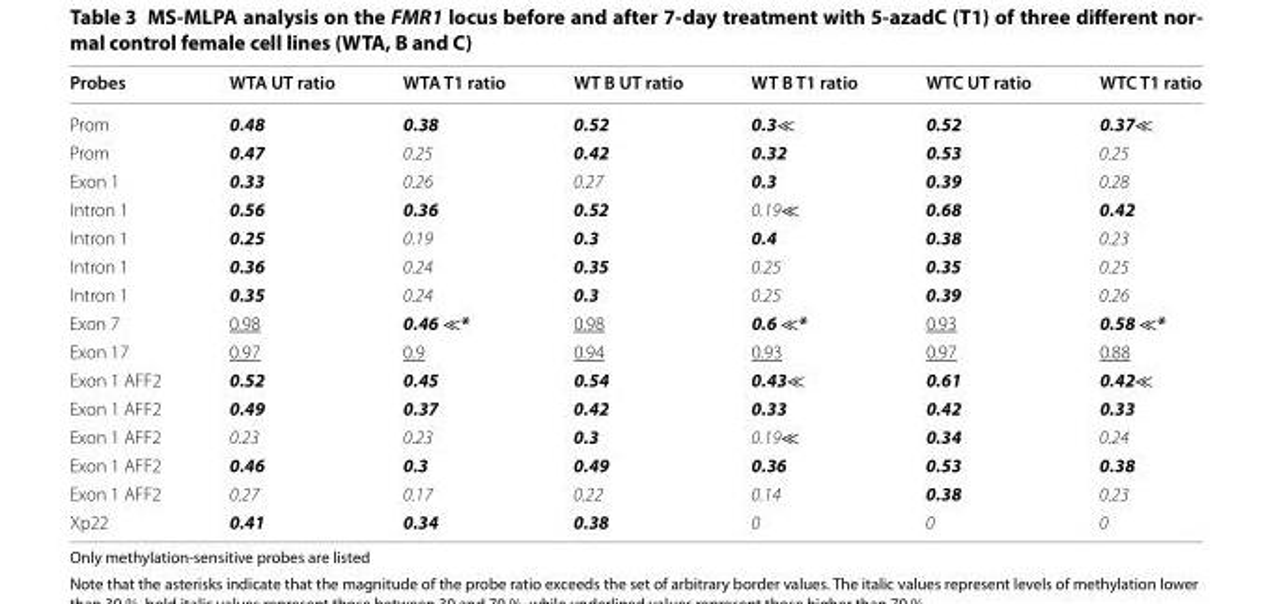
<table><thead><tr><td>Probes</td><td>WTA UT ratio</td><td>WTA T1 ratio</td><td>WT B UT ratio</td><td>WT B T1 ratio</td><td>WTC UT ratio</td><td>WTC T1 ratio</td></tr></thead><tbody><tr><td>Prom</td><td>0.48</td><td>0.38</td><td>0.52</td><td>0.3≪</td><td>0.52</td><td>0.37≪</td></tr><tr><td>Prom</td><td>0.47</td><td>0.25</td><td>0.42</td><td>0.32</td><td>0.53</td><td>0.25</td></tr><tr><td>Exon 1</td><td>0.33</td><td>0.26</td><td>0.27</td><td>0.3</td><td>0.39</td><td>0.28</td></tr><tr><td>Intron 1</td><td>0.56</td><td>0.36</td><td>0.52</td><td>0.19≪</td><td>0.68</td><td>0.42</td></tr><tr><td>Intron 1</td><td>0.25</td><td>0.19</td><td>0.3</td><td>0.4</td><td>0.38</td><td>0.23</td></tr><tr><td>Intron 1</td><td>0.36</td><td>0.24</td><td>0.35</td><td>0.25</td><td>0.35</td><td>0.25</td></tr><tr><td>Intron 1</td><td>0.35</td><td>0.24</td><td>0.3</td><td>0.25</td><td>0.39</td><td>0.26</td></tr><tr><td>Exon 7</td><td>0.98</td><td>0.46 ≪*</td><td>0.98</td><td>0.6 ≪*</td><td>0.93</td><td>0.58 ≪*</td></tr><tr><td>Exon 17</td><td>0.97</td><td>0.9</td><td>0.94</td><td>0.93</td><td>0.97</td><td>0.88</td></tr><tr><td>Exon 1 AFF2</td><td>0.52</td><td>0.45</td><td>0.54</td><td>0.43≪</td><td>0.61</td><td>0.42≪</td></tr><tr><td>Exon 1 AFF2</td><td>0.49</td><td>0.37</td><td>0.42</td><td>0.33</td><td>0.42</td><td>0.33</td></tr><tr><td>Exon 1 AFF2</td><td>0.23</td><td>0.23</td><td>0.3</td><td>0.19≪</td><td>0.34</td><td>0.24</td></tr><tr><td>Exon 1 AFF2</td><td>0.46</td><td>0.3</td><td>0.49</td><td>0.36</td><td>0.53</td><td>0.38</td></tr><tr><td>Exon 1 AFF2</td><td>0.27</td><td>0.17</td><td>0.22</td><td>0.14</td><td>0.38</td><td>0.23</td></tr><tr><td>Xp22</td><td>0.41</td><td>0.34</td><td>0.38</td><td>0</td><td>0</td><td>0</td></tr></tbody></table>